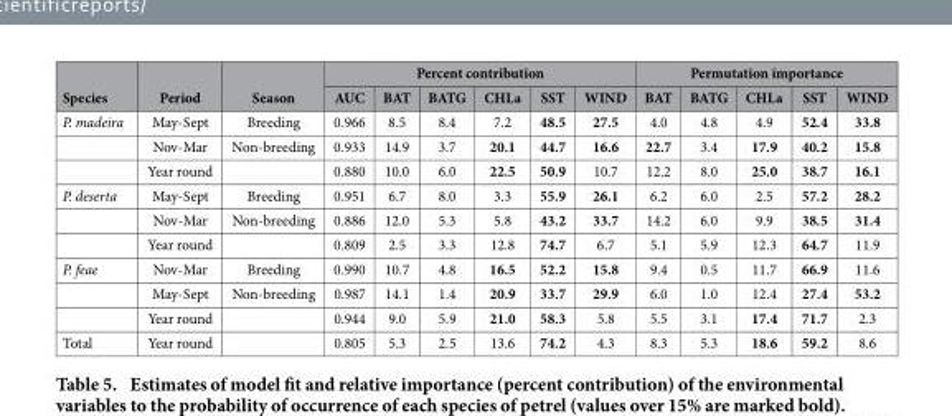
<table><thead><tr><td rowspan="2">Species</td><td rowspan="2">Period</td><td rowspan="2">Season</td><td colspan="6">Percent contribution</td><td colspan="5">Permutation importance</td></tr><tr><td>AUC</td><td>BAT</td><td>BATG</td><td>CHLa</td><td>SST</td><td>WIND</td><td>BAT</td><td>BATG</td><td>CHLa</td><td>SST</td><td>WIND</td></tr></thead><tbody><tr><td rowspan="3">P. madeira</td><td>May-Sept</td><td>Breeding</td><td>0.966</td><td>8.5</td><td>8.4</td><td>7.2</td><td>48.5</td><td>27.5</td><td>4.0</td><td>4.8</td><td>4.9</td><td>52.4</td><td>33.8</td></tr><tr><td>Nov-Mar</td><td>Non-breeding</td><td>0.933</td><td>14.9</td><td>3.7</td><td>20.1</td><td>44.7</td><td>16.6</td><td>22.7</td><td>3.4</td><td>17.9</td><td>40.2</td><td>15.8</td></tr><tr><td>Year round</td><td></td><td>0.880</td><td>10.0</td><td>6.0</td><td>22.5</td><td>50.9</td><td>10.7</td><td>12.2</td><td>8.0</td><td>25.0</td><td>38.7</td><td>16.1</td></tr><tr><td rowspan="3">P. deserta</td><td>May-Sept</td><td>Breeding</td><td>0.951</td><td>6.7</td><td>8.0</td><td>3.3</td><td>55.9</td><td>26.1</td><td>6.2</td><td>6.0</td><td>2.5</td><td>57.2</td><td>28.2</td></tr><tr><td>Nov-Mar</td><td>Non-breeding</td><td>0.886</td><td>12.0</td><td>5.3</td><td>5.8</td><td>43.2</td><td>33.7</td><td>14.2</td><td>6.0</td><td>9.9</td><td>38.5</td><td>31.4</td></tr><tr><td>Year round</td><td></td><td>0.809</td><td>2.5</td><td>3.3</td><td>12.8</td><td>74.7</td><td>6.7</td><td>5.1</td><td>5.9</td><td>12.3</td><td>64.7</td><td>11.9</td></tr><tr><td rowspan="3">P. feae</td><td>Nov-Mar</td><td>Breeding</td><td>0.990</td><td>10.7</td><td>4.8</td><td>16.5</td><td>52.2</td><td>15.8</td><td>9.4</td><td>0.5</td><td>11.7</td><td>66.9</td><td>11.6</td></tr><tr><td>May-Sept</td><td>Non-breeding</td><td>0.987</td><td>14.1</td><td>1.4</td><td>20.9</td><td>33.7</td><td>29.9</td><td>6.0</td><td>1.0</td><td>12.4</td><td>27.4</td><td>53.2</td></tr><tr><td>Year round</td><td></td><td>0.944</td><td>9.0</td><td>5.9</td><td>21.0</td><td>58.3</td><td>5.8</td><td>5.5</td><td>3.1</td><td>17.4</td><td>71.7</td><td>2.3</td></tr><tr><td>Total</td><td>Year round</td><td></td><td>0.805</td><td>5.3</td><td>2.5</td><td>13.6</td><td>74.2</td><td>4.3</td><td>8.3</td><td>5.3</td><td>18.6</td><td>59.2</td><td>8.6</td></tr></tbody></table>